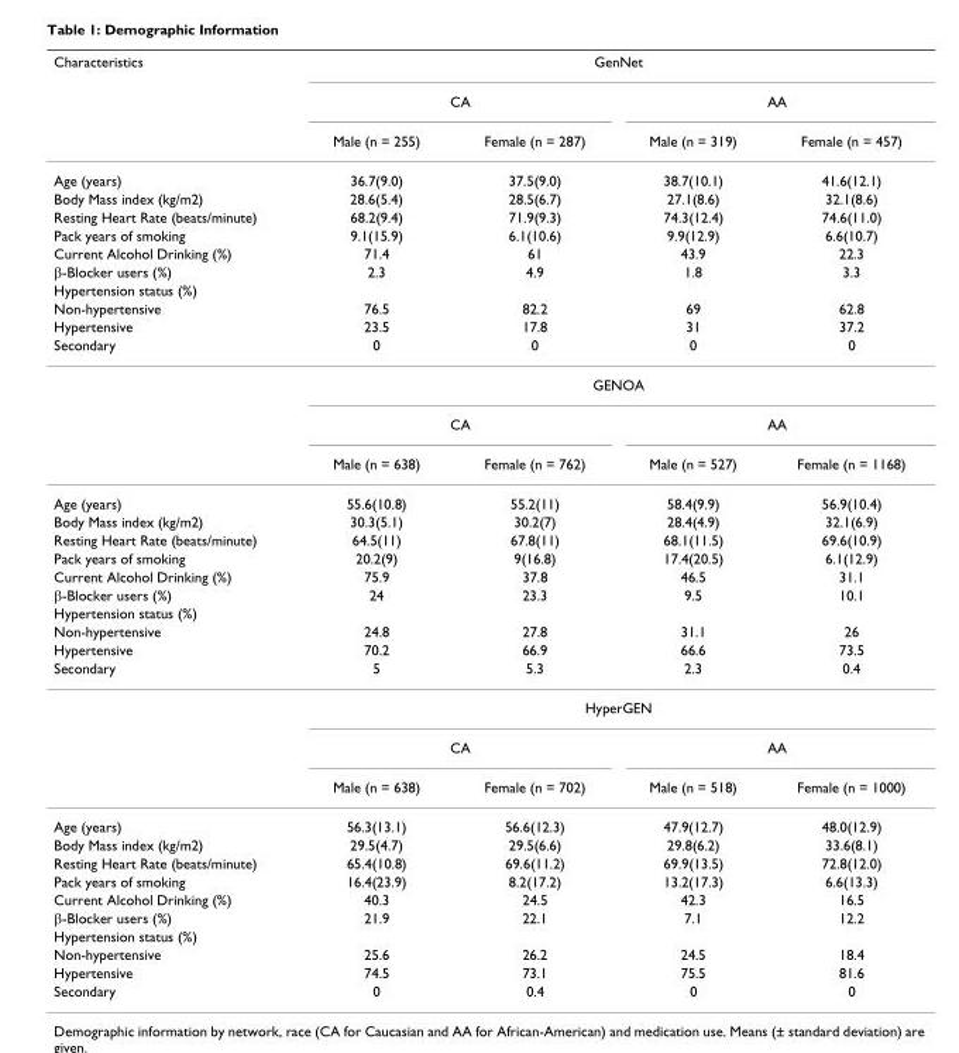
<table><thead><tr><td rowspan="3">Characteristics</td><td colspan="4">GenNet</td></tr><tr><td colspan="2">CA</td><td colspan="2">AA</td></tr><tr><td>Male (n = 255)</td><td>Female (n = 287)</td><td>Male (n = 319)</td><td>Female (n = 457)</td></tr></thead><tbody><tr><td>Age (years)</td><td>36.7(9.0)</td><td>37.5(9.0)</td><td>38.7(10.1)</td><td>41.6(12.1)</td></tr><tr><td>Body Mass index (kg/m2)</td><td>28.6(5.4)</td><td>28.5(6.7)</td><td>27.1(8.6)</td><td>32.1(8.6)</td></tr><tr><td>Resting Heart Rate (beats/minute)</td><td>68.2(9.4)</td><td>71.9(9.3)</td><td>74.3(12.4)</td><td>74.6(11.0)</td></tr><tr><td>Pack years of smoking</td><td>9.1(15.9)</td><td>6.1(10.6)</td><td>9.9(12.9)</td><td>6.6(10.7)</td></tr><tr><td>Current Alcohol Drinking (%)</td><td>71.4</td><td>61</td><td>43.9</td><td>22.3</td></tr><tr><td>β-Blocker users (%)</td><td>2.3</td><td>4.9</td><td>1.8</td><td>3.3</td></tr><tr><td colspan="5">Hypertension status (%)</td></tr><tr><td>Non-hypertensive</td><td>76.5</td><td>82.2</td><td>69</td><td>62.8</td></tr><tr><td>Hypertensive</td><td>23.5</td><td>17.8</td><td>31</td><td>37.2</td></tr><tr><td rowspan="4">Secondary</td><td>0</td><td>0</td><td>0</td><td>0</td></tr><tr><td colspan="4">GENOA</td></tr><tr><td colspan="2">CA</td><td colspan="2">AA</td></tr><tr><td>Male (n = 638)</td><td>Female (n = 762)</td><td>Male (n = 527)</td><td>Female (n = 1168)</td></tr><tr><td>Age (years)</td><td>55.6(10.8)</td><td>55.2(11)</td><td>58.4(9.9)</td><td>56.9(10.4)</td></tr><tr><td>Body Mass index (kg/m2)</td><td>30.3(5.1)</td><td>30.2(7)</td><td>28.4(4.9)</td><td>32.1(6.9)</td></tr><tr><td>Resting Heart Rate (beats/minute)</td><td>64.5(11)</td><td>67.8(11)</td><td>68.1(11.5)</td><td>69.6(10.9)</td></tr><tr><td>Pack years of smoking</td><td>20.2(9)</td><td>9(16.8)</td><td>17.4(20.5)</td><td>6.1(12.9)</td></tr><tr><td>Current Alcohol Drinking (%)</td><td>75.9</td><td>37.8</td><td>46.5</td><td>31.1</td></tr><tr><td>β-Blocker users (%)</td><td>24</td><td>23.3</td><td>9.5</td><td>10.1</td></tr><tr><td colspan="5">Hypertension status (%)</td></tr><tr><td>Non-hypertensive</td><td>24.8</td><td>27.8</td><td>31.1</td><td>26</td></tr><tr><td>Hypertensive</td><td>70.2</td><td>66.9</td><td>66.6</td><td>73.5</td></tr><tr><td rowspan="4">Secondary</td><td>5</td><td>5.3</td><td>2.3</td><td>0.4</td></tr><tr><td colspan="4">HyperGEN</td></tr><tr><td colspan="2">CA</td><td colspan="2">AA</td></tr><tr><td>Male (n = 638)</td><td>Female (n = 702)</td><td>Male (n = 518)</td><td>Female (n = 1000)</td></tr><tr><td>Age (years)</td><td>56.3(13.1)</td><td>56.6(12.3)</td><td>47.9(12.7)</td><td>48.0(12.9)</td></tr><tr><td>Body Mass index (kg/m2)</td><td>29.5(4.7)</td><td>29.5(6.6)</td><td>29.8(6.2)</td><td>33.6(8.1)</td></tr><tr><td>Resting Heart Rate (beats/minute)</td><td>65.4(10.8)</td><td>69.6(11.2)</td><td>69.9(13.5)</td><td>72.8(12.0)</td></tr><tr><td>Pack years of smoking</td><td>16.4(23.9)</td><td>8.2(17.2)</td><td>13.2(17.3)</td><td>6.6(13.3)</td></tr><tr><td>Current Alcohol Drinking (%)</td><td>40.3</td><td>24.5</td><td>42.3</td><td>16.5</td></tr><tr><td>β-Blocker users (%)</td><td>21.9</td><td>22.1</td><td>7.1</td><td>12.2</td></tr><tr><td colspan="5">Hypertension status (%)</td></tr><tr><td>Non-hypertensive</td><td>25.6</td><td>26.2</td><td>24.5</td><td>18.4</td></tr><tr><td>Hypertensive</td><td>74.5</td><td>73.1</td><td>75.5</td><td>81.6</td></tr><tr><td>Secondary</td><td>0</td><td>0.4</td><td>0</td><td>0</td></tr></tbody></table>